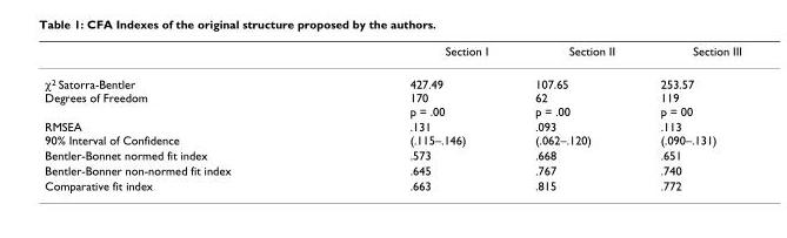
<table><thead><tr><td></td><td>Section I</td><td>Section II</td><td>Section III</td></tr></thead><tbody><tr><td>χ<sup>2</sup> Satorra-Bentler Degrees of Freedom</td><td>427.49 170 p = .00</td><td>107.65 62 p = .00</td><td>253.57 119 p = 00</td></tr><tr><td>RMSEA 90% Interval of Confidence</td><td>.131 (.115–.146)</td><td>.093 (.062–.120)</td><td>.113 (.090–.131)</td></tr><tr><td>Bentler-Bonnet normed fit index</td><td>.573</td><td>.668</td><td>.651</td></tr><tr><td>Bentler-Bonner non-normed fit index</td><td>.645</td><td>.767</td><td>.740</td></tr><tr><td>Comparative fit index</td><td>.663</td><td>.815</td><td>.772</td></tr></tbody></table>